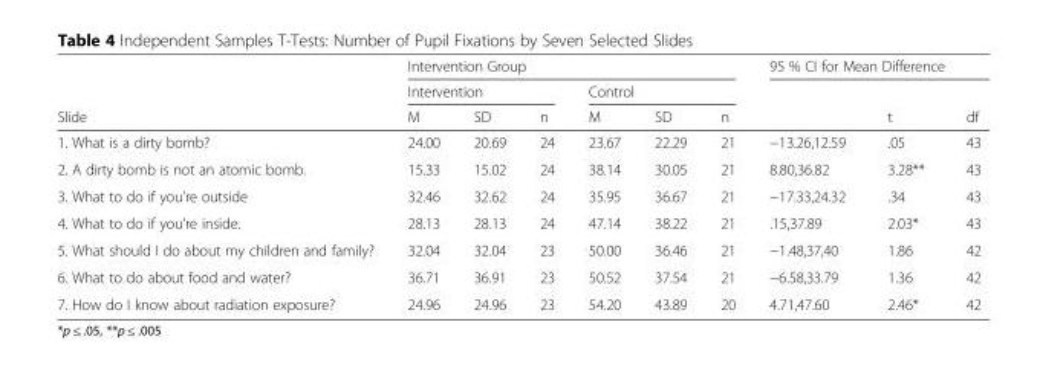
<table><thead><tr><td rowspan="3">Slide</td><td colspan="6">Intervention Group</td><td colspan="3">95 % CI for Mean Difference</td></tr><tr><td colspan="3">Intervention</td><td colspan="3">Control</td><td rowspan="2"></td><td rowspan="2">t</td><td rowspan="2">df</td></tr><tr><td>M</td><td>SD</td><td>n</td><td>M</td><td>SD</td><td>n</td></tr></thead><tbody><tr><td>1. What is a dirty bomb?</td><td>24.00</td><td>20.69</td><td>24</td><td>23.67</td><td>22.29</td><td>21</td><td>−13.26,12.59</td><td>.05</td><td>43</td></tr><tr><td>2. A dirty bomb is not an atomic bomb.</td><td>15.33</td><td>15.02</td><td>24</td><td>38.14</td><td>30.05</td><td>21</td><td>8.80,36.82</td><td>3.28**</td><td>43</td></tr><tr><td>3. What to do if you’re outside</td><td>32.46</td><td>32.62</td><td>24</td><td>35.95</td><td>36.67</td><td>21</td><td>−17.33,24.32</td><td>.34</td><td>43</td></tr><tr><td>4. What to do if you’re inside.</td><td>28.13</td><td>28.13</td><td>24</td><td>47.14</td><td>38.22</td><td>21</td><td>.15,37.89</td><td>2.03*</td><td>43</td></tr><tr><td>5. What should I do about my children and family?</td><td>32.04</td><td>32.04</td><td>23</td><td>50.00</td><td>36.46</td><td>21</td><td>−1.48,37,40</td><td>1.86</td><td>42</td></tr><tr><td>6. What to do about food and water?</td><td>36.71</td><td>36.91</td><td>23</td><td>50.52</td><td>37.54</td><td>21</td><td>−6.58,33.79</td><td>1.36</td><td>42</td></tr><tr><td>7. How do I know about radiation exposure?</td><td>24.96</td><td>24.96</td><td>23</td><td>54.20</td><td>43.89</td><td>20</td><td>4.71,47.60</td><td>2.46*</td><td>42</td></tr></tbody></table>